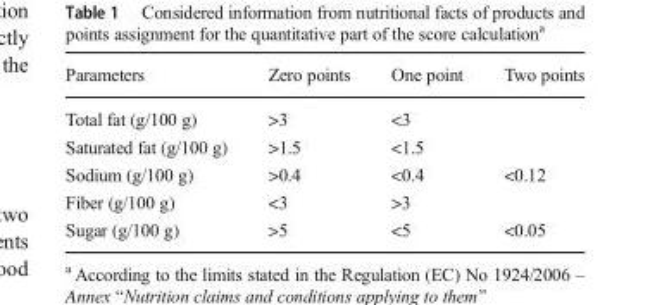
<table><thead><tr><td>Parameters</td><td>Zero points</td><td>One point</td><td>Two points</td></tr></thead><tbody><tr><td>Total fat (g/100 g)</td><td>&gt;3</td><td>&lt;3</td><td></td></tr><tr><td>Saturated fat (g/100 g)</td><td>&gt;1.5</td><td>&lt;1.5</td><td></td></tr><tr><td>Sodium (g/100 g)</td><td>&gt;0.4</td><td>&lt;0.4</td><td>&lt;0.12</td></tr><tr><td>Fiber (g/100 g)</td><td>&lt;3</td><td>&gt;3</td><td></td></tr><tr><td>Sugar (g/100 g)</td><td>&gt;5</td><td>&lt;5</td><td>&lt;0.05</td></tr></tbody></table>